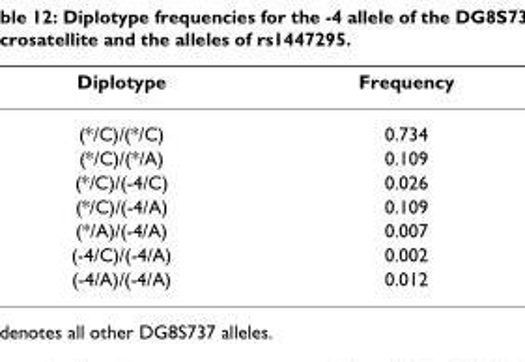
<table><thead><tr><td>Diplotype</td><td>Frequency</td></tr></thead><tbody><tr><td>(*/C)/(*/C)</td><td>0.734</td></tr><tr><td>(*/C)/(*/A)</td><td>0.109</td></tr><tr><td>(*/C)/(-4/C)</td><td>0.026</td></tr><tr><td>(*/C)/(-4/A)</td><td>0.109</td></tr><tr><td>(*/A)/(-4/A)</td><td>0.007</td></tr><tr><td>(-4/C)/(-4/A)</td><td>0.002</td></tr><tr><td>(-4/A)/(-4/A)</td><td>0.012</td></tr></tbody></table>